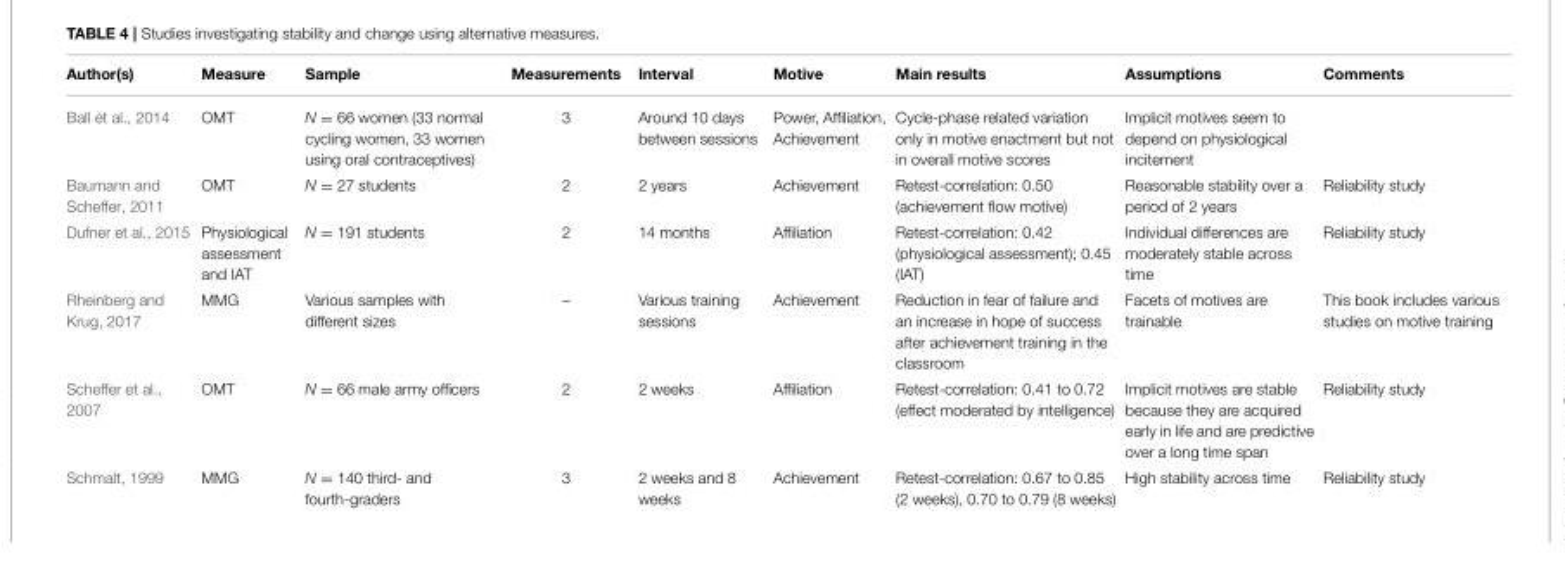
<table><thead><tr><td>Author(s)</td><td>Measure</td><td>Sample</td><td>Measurements</td><td>Interval</td><td>Motive</td><td>Main results</td><td>Assumptions</td><td>Comments</td></tr></thead><tbody><tr><td>Ball et al., 2014</td><td>OMT</td><td>N = 66 women (33 normal cycling women, 33 women using oral contraceptives)</td><td>3</td><td>Around 10 days between sessions</td><td>Power, Affiliation, Achievement</td><td>Cycle-phase related variation only in motive enactment but not in overall motive scores</td><td>Implicit motives seem to depend on physiological incitement</td><td></td></tr><tr><td>Baumann and Scheffer, 2011</td><td>OMT</td><td>N = 27 students</td><td>2</td><td>2 years</td><td>Achievement</td><td>Retest-correlation: 0.50 (achievement flow motive)</td><td>Reasonable stability over a period of 2 years</td><td>Reliability study</td></tr><tr><td>Dufner et al., 2015</td><td>Physiological assessment and IAT</td><td>N = 191 students</td><td>2</td><td>14 months</td><td>Affiliation</td><td>Retest-correlation: 0.42 (physiological assessment); 0.45 (IAT)</td><td>Individual differences are moderately stable across time</td><td>Reliability study</td></tr><tr><td>Rheinberg and Krug, 2017</td><td>MMG</td><td>Various samples with different sizes</td><td>–</td><td>Various training sessions</td><td>Achievement</td><td>Reduction in fear of failure and an increase in hope of success after achievement training in the classroom</td><td>Facets of motives are trainable</td><td>This book includes various studies on motive training</td></tr><tr><td>Scheffer et al., 2007</td><td>OMT</td><td>N = 66 male army officers</td><td>2</td><td>2 weeks</td><td>Affiliation</td><td>Retest-correlation: 0.41 to 0.72 (effect moderated by intelligence)</td><td>Implicit motives are stable because they are acquired early in life and are predictive over a long time span</td><td>Reliability study</td></tr><tr><td>Schmalt, 1999</td><td>MMG</td><td>N = 140 third- and fourth-graders</td><td>3</td><td>2 weeks and 8 weeks</td><td>Achievement</td><td>Retest-correlation: 0.67 to 0.85 (2 weeks), 0.70 to 0.79 (8 weeks)</td><td>High stability across time</td><td>Reliability study</td></tr></tbody></table>